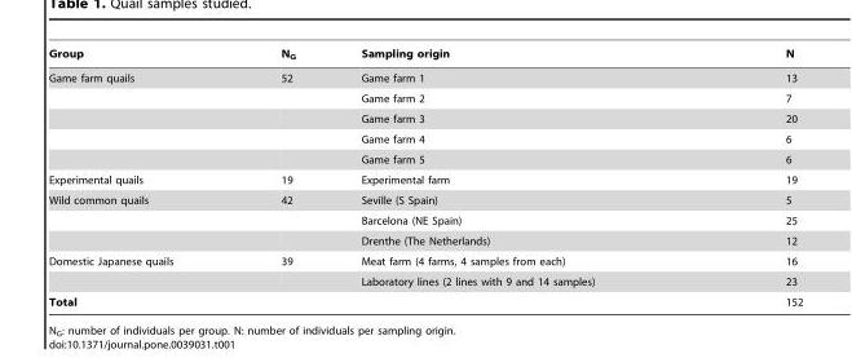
<table><thead><tr><td>Group</td><td>N<sub>G</sub></td><td>Sampling origin</td><td>N</td></tr></thead><tbody><tr><td rowspan="5">Game farm quails</td><td>52</td><td>Game farm 1</td><td>13</td></tr><tr><td></td><td>Game farm 2</td><td>7</td></tr><tr><td></td><td>Game farm 3</td><td>20</td></tr><tr><td></td><td>Game farm 4</td><td>6</td></tr><tr><td></td><td>Game farm 5</td><td>6</td></tr><tr><td>Experimental quails</td><td>19</td><td>Experimental farm</td><td>19</td></tr><tr><td rowspan="3">Wild common quails</td><td>42</td><td>Seville (S Spain)</td><td>5</td></tr><tr><td></td><td>Barcelona (NE Spain)</td><td>25</td></tr><tr><td></td><td>Drenthe (The Netherlands)</td><td>12</td></tr><tr><td rowspan="2">Domestic Japanese quails</td><td>39</td><td>Meat farm (4 farms, 4 samples from each)</td><td>16</td></tr><tr><td></td><td>Laboratory lines (2 lines with 9 and 14 samples)</td><td>23</td></tr><tr><td colspan="3">Total</td><td>152</td></tr></tbody></table>